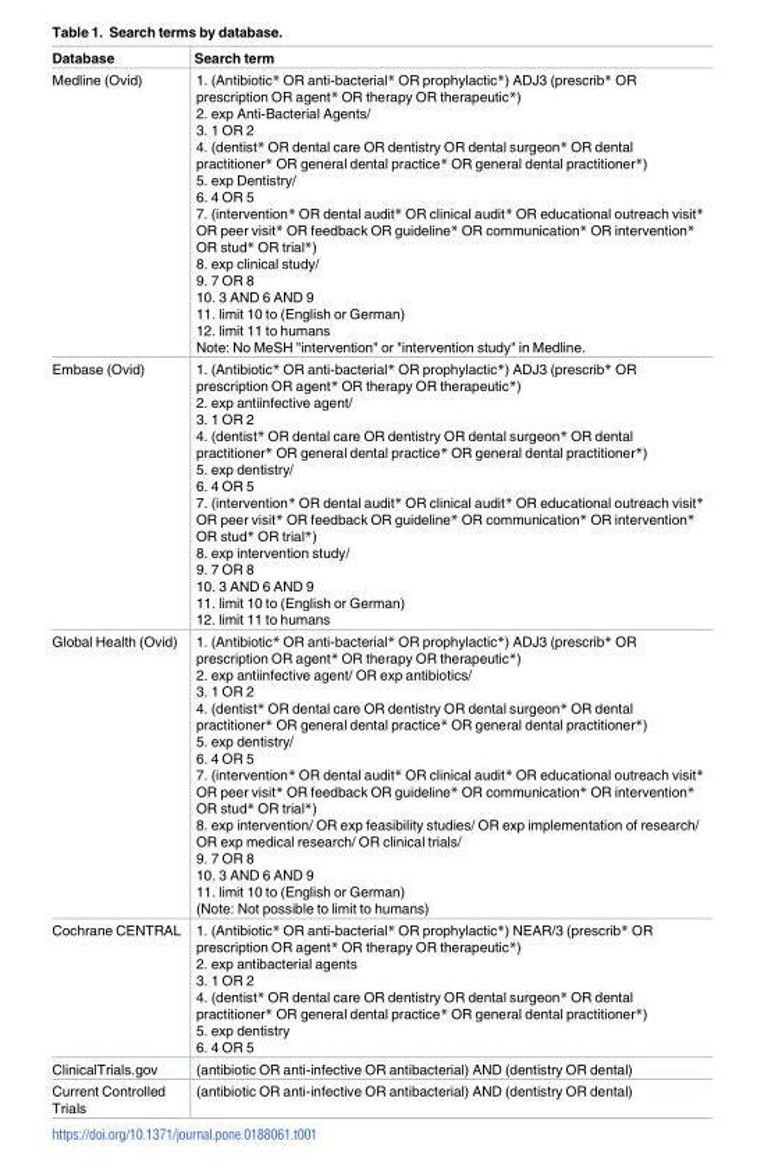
<table><thead><tr><td>Database</td><td>Search term</td></tr></thead><tbody><tr><td>Medline (Ovid)</td><td>1. (Antibiotic* OR anti-bacterial* OR prophylactic*) ADJ3 (prescrib* OR prescription OR agent* OR therapy OR therapeutic*) 2. exp Anti-Bacterial Agents/ 3. 1 OR 2 4. (dentist* OR dental care OR dentistry OR dental surgeon* OR dental practitioner* OR general dental practice* OR general dental practitioner*) 5. exp Dentistry/ 6. 4 OR 5 7. (intervention* OR dental audit* OR clinical audit* OR educational outreach visit* OR peer visit* OR feedback OR guideline* OR communication* OR intervention* OR stud* OR trial*) 8. exp clinical study/ 9. 7 OR 8 10. 3 AND 6 AND 9 11. limit 10 to (English or German) 12. limit 11 to humans Note: No MeSH &quot;intervention&quot; or &quot;intervention study&quot; in Medline.</td></tr><tr><td>Embase (Ovid)</td><td>1. (Antibiotic* OR anti-bacterial* OR prophylactic*) ADJ3 (prescrib* OR prescription OR agent* OR therapy OR therapeutic*) 2. exp antiinfective agent/ 3. 1 OR 2 4. (dentist* OR dental care OR dentistry OR dental surgeon* OR dental practitioner* OR general dental practice* OR general dental practitioner*) 5. exp dentistry/ 6. 4 OR 5 7. (intervention* OR dental audit* OR clinical audit* OR educational outreach visit* OR peer visit* OR feedback OR guideline* OR communication* OR intervention* OR stud* OR trial*) 8. exp intervention study/ 9. 7 OR 8 10. 3 AND 6 AND 9 11. limit 10 to (English or German) 12. limit 11 to humans</td></tr><tr><td>Global Health (Ovid)</td><td>1. (Antibiotic* OR anti-bacterial* OR prophylactic*) ADJ3 (prescrib* OR prescription OR agent* OR therapy OR therapeutic*) 2. exp antiinfective agent/ OR exp antibiotics/ 3. 1 OR 2 4. (dentist* OR dental care OR dentistry OR dental surgeon* OR dental practitioner* OR general dental practice* OR general dental practitioner*) 5. exp dentistry/ 6. 4 OR 5 7. (intervention* OR dental audit* OR clinical audit* OR educational outreach visit* OR peer visit* OR feedback OR guideline* OR communication* OR intervention* OR stud* OR trial*) 8. exp intervention/ OR exp feasibility studies/ OR exp implementation of research/ OR exp medical research/ OR clinical trials/ 9. 7 OR 8 10. 3 AND 6 AND 9 11. limit 10 to (English or German) (Note: Not possible to limit to humans)</td></tr><tr><td>Cochrane CENTRAL</td><td>1. (Antibiotic* OR anti-bacterial* OR prophylactic*) NEAR/3 (prescrib* OR prescription OR agent* OR therapy OR therapeutic*) 2. exp antibacterial agents 3. 1 OR 2 4. (dentist* OR dental care OR dentistry OR dental surgeon* OR dental practitioner* OR general dental practice* OR general dental practitioner*) 5. exp dentistry 6. 4 OR 5</td></tr><tr><td>ClinicalTrials.gov</td><td>(antibiotic OR anti-infective OR antibacterial) AND (dentistry OR dental)</td></tr><tr><td>Current Controlled Trials</td><td>(antibiotic OR anti-infective OR antibacterial) AND (dentistry OR dental)</td></tr></tbody></table>